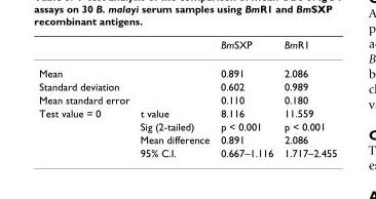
<table><thead><tr><td></td><td></td><td>BmSXP</td><td>BmR1</td></tr></thead><tbody><tr><td>Mean</td><td></td><td>0.891</td><td>2.086</td></tr><tr><td>Standard deviation</td><td></td><td>0.602</td><td>0.989</td></tr><tr><td>Mean standard error</td><td></td><td>0.110</td><td>0.180</td></tr><tr><td rowspan="4">Test value = 0</td><td>t value</td><td>8.116</td><td>11.559</td></tr><tr><td>Sig (2-tailed)</td><td>p &lt; 0.001</td><td>p &lt; 0.001</td></tr><tr><td>Mean difference</td><td>0.891</td><td>2.086</td></tr><tr><td>95% C.I.</td><td>0.667–1.116</td><td>1.717–2.455</td></tr></tbody></table>